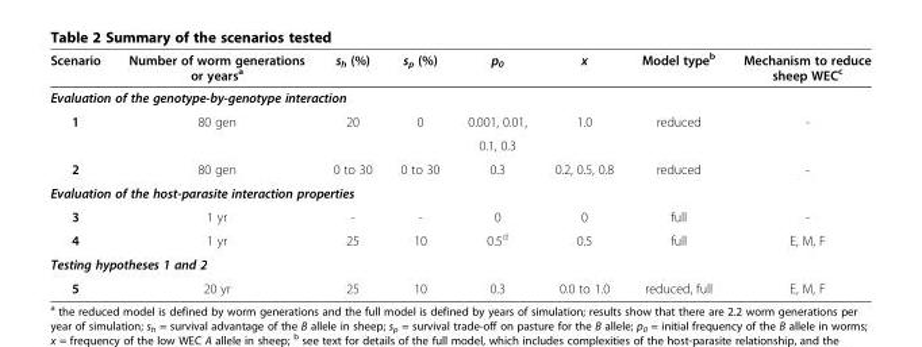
<table><thead><tr><td>Scenario</td><td>Number of worm generations or years<sup>a</sup></td><td>s<sub>h</sub> (%)</td><td>s<sub>p</sub> (%)</td><td>p<sub>0</sub></td><td>x</td><td>Model type<sup>b</sup></td><td>Mechanism to reduce sheep WEC<sup>c</sup></td></tr></thead><tbody><tr><td colspan="8">Evaluation of the genotype-by-genotype interaction</td></tr><tr><td rowspan="2">1</td><td rowspan="2">80 gen</td><td rowspan="2">20</td><td rowspan="2">0</td><td>0.001, 0.01,</td><td rowspan="2">1.0</td><td rowspan="2">reduced</td><td rowspan="2">-</td></tr><tr><td>0.1, 0.3</td></tr><tr><td>2</td><td>80 gen</td><td>0 to 30</td><td>0 to 30</td><td>0.3</td><td>0.2, 0.5, 0.8</td><td>reduced</td><td>-</td></tr><tr><td colspan="8">Evaluation of the host-parasite interaction properties</td></tr><tr><td>3</td><td>1 yr</td><td>-</td><td>-</td><td>0</td><td>0</td><td>full</td><td>-</td></tr><tr><td>4</td><td>1 yr</td><td>25</td><td>10</td><td>0.5<sup>d</sup></td><td>0.5</td><td>full</td><td>E, M, F</td></tr><tr><td colspan="8">Testing hypotheses 1 and 2</td></tr><tr><td>5</td><td>20 yr</td><td>25</td><td>10</td><td>0.3</td><td>0.0 to 1.0</td><td>reduced, full</td><td>E, M, F</td></tr></tbody></table>